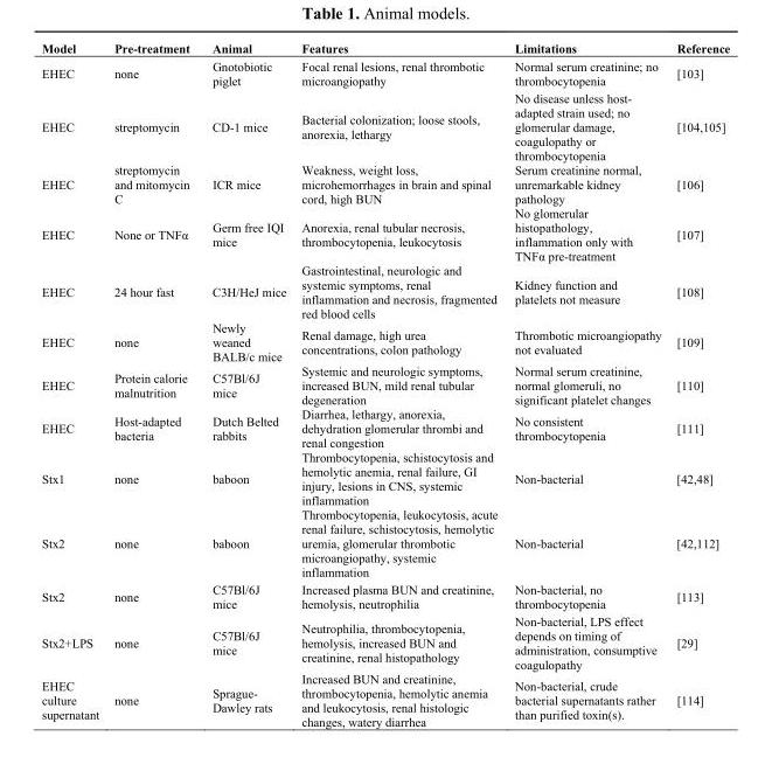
<table><thead><tr><td>Model</td><td>Pre-treatment</td><td>Animal</td><td>Features</td><td>Limitations</td><td>Reference</td></tr></thead><tbody><tr><td>EHEC</td><td>none</td><td>Gnotobiotic piglet</td><td>Focal renal lesions, renal thrombotic microangiopathy</td><td>Normal serum creatinine; no thrombocytopenia</td><td>[103]</td></tr><tr><td>EHEC</td><td>streptomycin</td><td>CD-1 mice</td><td>Bacterial colonization; loose stools, anorexia, lethargy</td><td>No disease unless host- adapted strain used; no glomerular damage, coagulopathy or thrombocytopenia</td><td>[104,105]</td></tr><tr><td>EHEC</td><td>streptomycin and mitomycin C</td><td>ICR mice</td><td>Weakness, weight loss, microhemorrhages in brain and spinal cord, high BUN</td><td>Serum creatinine normal, unremarkable kidney pathology</td><td>[106]</td></tr><tr><td>EHEC</td><td>None or TNFα</td><td>Germ free IQI mice</td><td>Anorexia, renal tubular necrosis, thrombocytopenia, leukocytosis</td><td>No glomerular histopathology, inflammation only with TNFα pre-treatment</td><td>[107]</td></tr><tr><td>EHEC</td><td>24 hour fast</td><td>C3H/HeJ mice</td><td>Gastrointestinal, neurologic and systemic symptoms, renal inflammation and necrosis, fragmented red blood cells</td><td>Kidney function and platelets not measure</td><td>[108]</td></tr><tr><td>EHEC</td><td>none</td><td>Newly weaned BALB/c mice</td><td>Renal damage, high urea concentrations, colon pathology</td><td>Thrombotic microangiopathy not evaluated</td><td>[109]</td></tr><tr><td>EHEC</td><td>Protein calorie malnutrition</td><td>C57Bl/6J mice</td><td>Systemic and neurologic symptoms, increased BUN, mild renal tubular degeneration</td><td>Normal serum creatinine, normal glomeruli, no significant platelet changes</td><td>[110]</td></tr><tr><td>EHEC</td><td>Host-adapted bacteria</td><td>Dutch Belted rabbits</td><td>Diarrhea, lethargy, anorexia, dehydration glomerular thrombi and renal congestion</td><td>No consistent thrombocytopenia</td><td>[111]</td></tr><tr><td>Stx1</td><td>none</td><td>baboon</td><td>Thrombocytopenia, schistocytosis and hemolytic anemia, renal failure, GI injury, lesions in CNS, systemic inflammation</td><td>Non-bacterial</td><td>[42,48]</td></tr><tr><td>Stx2</td><td>none</td><td>baboon</td><td>Thrombocytopenia, leukocytosis, acute renal failure, schistocytosis, hemolytic uremia, glomerular thrombotic microangiopathy, systemic inflammation</td><td>Non-bacterial</td><td>[42,112]</td></tr><tr><td>Stx2</td><td>none</td><td>C57Bl/6J mice</td><td>Increased plasma BUN and creatinine, hemolysis, neutrophilia</td><td>Non-bacterial, no thrombocytopenia</td><td>[113]</td></tr><tr><td>Stx2+LPS</td><td>none</td><td>C57Bl/6J mice</td><td>Neutrophilia, thrombocytopenia, hemolysis, increased BUN and creatinine, renal histopathology</td><td>Non-bacterial, LPS effect depends on timing of administration, consumptive coagulopathy</td><td>[29]</td></tr><tr><td>EHEC culture supernatant</td><td>none</td><td>Sprague- Dawley rats</td><td>Increased BUN and creatinine, thrombocytopenia, hemolytic anemia and leukocytosis, renal histologic changes, watery diarrhea</td><td>Non-bacterial, crude bacterial supernatants rather than purified toxin(s).</td><td>[114]</td></tr></tbody></table>